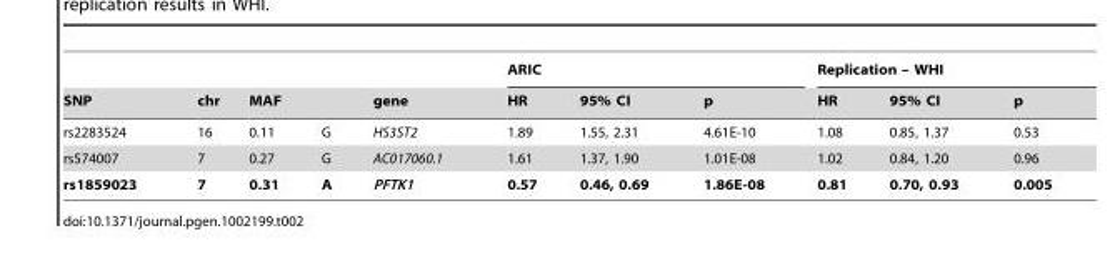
<table><thead><tr><td rowspan="2">SNP</td><td rowspan="2">chr</td><td rowspan="2">MAF</td><td rowspan="2"></td><td rowspan="2">gene</td><td colspan="3">ARIC</td><td colspan="3">Replication – WHI</td></tr><tr><td>HR</td><td>95% CI</td><td>p</td><td>HR</td><td>95% CI</td><td>p</td></tr></thead><tbody><tr><td>rs2283524</td><td>16</td><td>0.11</td><td>G</td><td>HS3ST2</td><td>1.89</td><td>1.55, 2.31</td><td>4.61E-10</td><td>1.08</td><td>0.85, 1.37</td><td>0.53</td></tr><tr><td>rs574007</td><td>7</td><td>0.27</td><td>G</td><td>AC017060.1</td><td>1.61</td><td>1.37, 1.90</td><td>1.01E-08</td><td>1.02</td><td>0.84, 1.20</td><td>0.96</td></tr><tr><td>rs1859023</td><td>7</td><td>0.31</td><td>A</td><td>PFTK1</td><td>0.57</td><td>0.46, 0.69</td><td>1.86E-08</td><td>0.81</td><td>0.70, 0.93</td><td>0.005</td></tr></tbody></table>